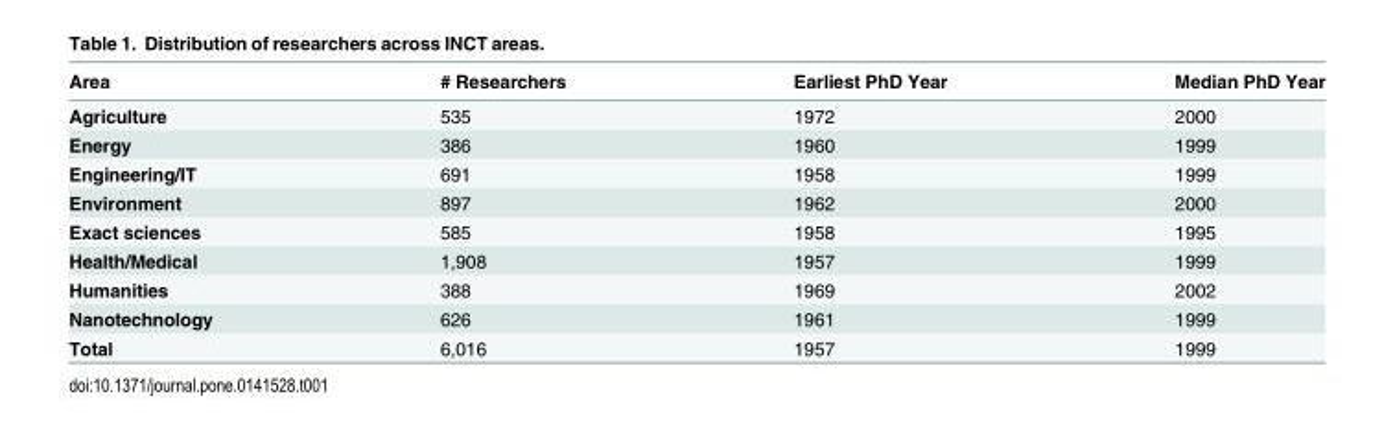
<table><thead><tr><td>Area</td><td># Researchers</td><td>Earliest PhD Year</td><td>Median PhD Year</td></tr></thead><tbody><tr><td>Agriculture</td><td>535</td><td>1972</td><td>2000</td></tr><tr><td>Energy</td><td>386</td><td>1960</td><td>1999</td></tr><tr><td>Engineering/IT</td><td>691</td><td>1958</td><td>1999</td></tr><tr><td>Environment</td><td>897</td><td>1962</td><td>2000</td></tr><tr><td>Exact sciences</td><td>585</td><td>1958</td><td>1995</td></tr><tr><td>Health/Medical</td><td>1,908</td><td>1957</td><td>1999</td></tr><tr><td>Humanities</td><td>388</td><td>1969</td><td>2002</td></tr><tr><td>Nanotechnology</td><td>626</td><td>1961</td><td>1999</td></tr><tr><td>Total</td><td>6,016</td><td>1957</td><td>1999</td></tr></tbody></table>